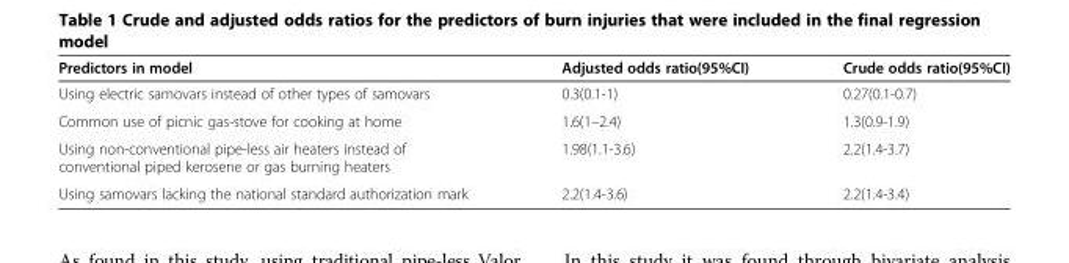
<table><thead><tr><td>Predictors in model</td><td>Adjusted odds ratio(95%CI)</td><td>Crude odds ratio(95%CI)</td></tr></thead><tbody><tr><td>Using electric samovars instead of other types of samovars</td><td>0.3(0.1-1)</td><td>0.27(0.1-0.7)</td></tr><tr><td>Common use of picnic gas-stove for cooking at home</td><td>1.6(1–2.4)</td><td>1.3(0.9-1.9)</td></tr><tr><td>Using non-conventional pipe-less air heaters instead of conventional piped kerosene or gas burning heaters</td><td>1.98(1.1-3.6)</td><td>2.2(1.4-3.7)</td></tr><tr><td>Using samovars lacking the national standard authorization mark</td><td>2.2(1.4-3.6)</td><td>2.2(1.4-3.4)</td></tr></tbody></table>